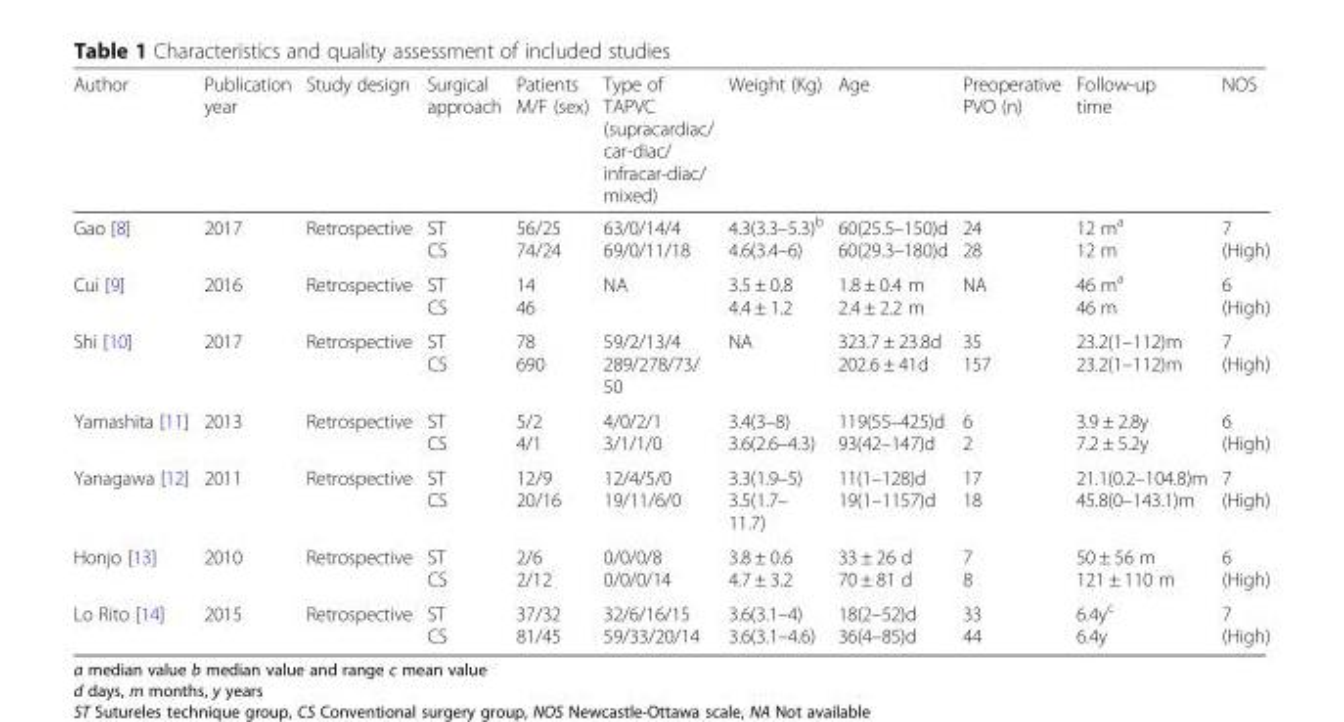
<table><thead><tr><td>Author</td><td>Publication year</td><td>Study design</td><td>Surgical approach</td><td>Patients M/F (sex)</td><td>Type of TAPVC (supracardiac/ car-diac/ infracar-diac/ mixed)</td><td>Weight (Kg)</td><td>Age</td><td>Preoperative PVO (n)</td><td>Follow-up time</td><td>NOS</td></tr></thead><tbody><tr><td>Gao [8]</td><td>2017</td><td>Retrospective</td><td>ST CS</td><td>56/25 74/24</td><td>63/0/14/4 69/0/11/18</td><td>4.3(3.3–5.3)<sup>b</sup> 4.6(3.4–6)</td><td>60(25.5–150)d 60(29.3–180)d</td><td>24 28</td><td>12 m<sup>a</sup> 12 m</td><td>7 (High)</td></tr><tr><td>Cui [9]</td><td>2016</td><td>Retrospective</td><td>ST CS</td><td>14 46</td><td>NA</td><td>3.5 ± 0.8 4.4 ± 1.2</td><td>1.8 ± 0.4 m 2.4 ± 2.2 m</td><td>NA</td><td>46 m<sup>a</sup> 46 m</td><td>6 (High)</td></tr><tr><td>Shi [10]</td><td>2017</td><td>Retrospective</td><td>ST CS</td><td>78 690</td><td>59/2/13/4 289/278/73/ 50</td><td>NA</td><td>323.7 ± 23.8d 202.6 ± 41d</td><td>35 157</td><td>23.2(1–112)m 23.2(1–112)m</td><td>7 (High)</td></tr><tr><td>Yamashita [11]</td><td>2013</td><td>Retrospective</td><td>ST CS</td><td>5/2 4/1</td><td>4/0/2/1 3/1/1/0</td><td>3.4(3–8) 3.6(2.6–4.3)</td><td>119(55–425)d 93(42–147)d</td><td>6 2</td><td>3.9 ± 2.8y 7.2 ± 5.2y</td><td>6 (High)</td></tr><tr><td>Yanagawa [12]</td><td>2011</td><td>Retrospective</td><td>ST CS</td><td>12/9 20/16</td><td>12/4/5/0 19/11/6/0</td><td>3.3(1.9–5) 3.5(1.7– 11.7)</td><td>11(1–128)d 19(1–1157)d</td><td>17 18</td><td>21.1(0.2–104.8)m 45.8(0–143.1)m</td><td>7 (High)</td></tr><tr><td>Honjo [13]</td><td>2010</td><td>Retrospective</td><td>ST CS</td><td>2/6 2/12</td><td>0/0/0/8 0/0/0/14</td><td>3.8 ± 0.6 4.7 ± 3.2</td><td>33 ± 26 d 70 ± 81 d</td><td>7 8</td><td>50 ± 56 m 121 ± 110 m</td><td>6 (High)</td></tr><tr><td>Lo Rito [14]</td><td>2015</td><td>Retrospective</td><td>ST CS</td><td>37/32 81/45</td><td>32/6/16/15 59/33/20/14</td><td>3.6(3.1–4) 3.6(3.1–4.6)</td><td>18(2–52)d 36(4–85)d</td><td>33 44</td><td>6.4y<sup>c</sup> 6.4y</td><td>7 (High)</td></tr></tbody></table>